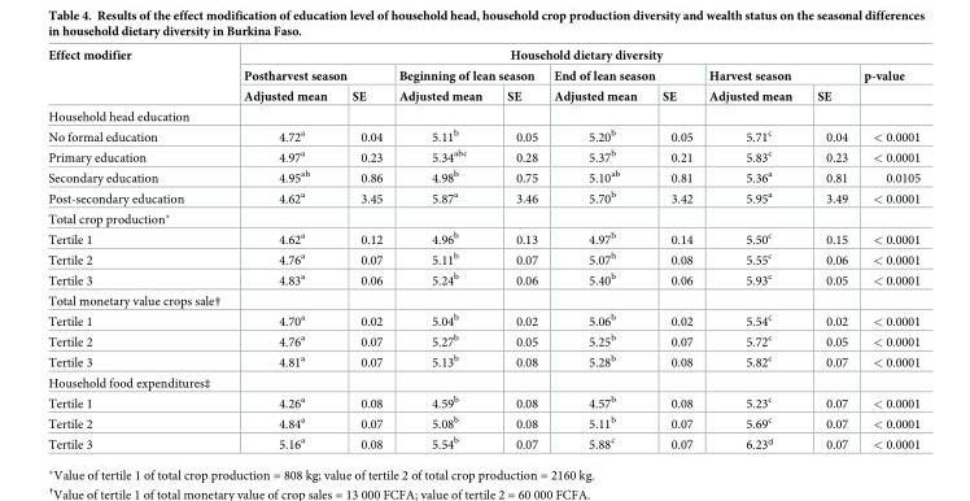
<table><thead><tr><td rowspan="3">Effect modifier</td><td colspan="9">Household dietary diversity</td></tr><tr><td colspan="2">Postharvest season</td><td colspan="2">Beginning of lean season</td><td colspan="2">End of lean season</td><td colspan="2">Harvest season</td><td rowspan="2">p-value</td></tr><tr><td>Adjusted mean</td><td>SE</td><td>Adjusted mean</td><td>SE</td><td>Adjusted mean</td><td>SE</td><td>Adjusted mean</td><td>SE</td></tr></thead><tbody><tr><td colspan="10">Household head education</td></tr><tr><td>No formal education</td><td>4.72<sup>a</sup></td><td>0.04</td><td>5.11<sup>b</sup></td><td>0.05</td><td>5.20<sup>b</sup></td><td>0.05</td><td>5.71<sup>c</sup></td><td>0.04</td><td>&lt; 0.0001</td></tr><tr><td>Primary education</td><td>4.97<sup>a</sup></td><td>0.23</td><td>5.34<sup>abc</sup></td><td>0.28</td><td>5.37<sup>b</sup></td><td>0.21</td><td>5.83<sup>c</sup></td><td>0.23</td><td>&lt; 0.0001</td></tr><tr><td>Secondary education</td><td>4.95<sup>ab</sup></td><td>0.86</td><td>4.98<sup>b</sup></td><td>0.75</td><td>5.10<sup>ab</sup></td><td>0.81</td><td>5.36<sup>a</sup></td><td>0.81</td><td>0.0105</td></tr><tr><td>Post-secondary education</td><td>4.62<sup>a</sup></td><td>3.45</td><td>5.87<sup>a</sup></td><td>3.46</td><td>5.70<sup>b</sup></td><td>3.42</td><td>5.95<sup>a</sup></td><td>3.49</td><td>&lt; 0.0001</td></tr><tr><td colspan="10">Total crop production*</td></tr><tr><td>Tertile 1</td><td>4.62<sup>a</sup></td><td>0.12</td><td>4.96<sup>b</sup></td><td>0.13</td><td>4.97<sup>b</sup></td><td>0.14</td><td>5.50<sup>c</sup></td><td>0.15</td><td>&lt; 0.0001</td></tr><tr><td>Tertile 2</td><td>4.76<sup>a</sup></td><td>0.07</td><td>5.11<sup>b</sup></td><td>0.07</td><td>5.07<sup>b</sup></td><td>0.08</td><td>5.55<sup>c</sup></td><td>0.06</td><td>&lt; 0.0001</td></tr><tr><td>Tertile 3</td><td>4.83<sup>a</sup></td><td>0.06</td><td>5.24<sup>b</sup></td><td>0.06</td><td>5.40<sup>b</sup></td><td>0.06</td><td>5.93<sup>c</sup></td><td>0.05</td><td>&lt; 0.0001</td></tr><tr><td colspan="10">Total monetary value crops sale†</td></tr><tr><td>Tertile 1</td><td>4.70<sup>a</sup></td><td>0.02</td><td>5.04<sup>b</sup></td><td>0.02</td><td>5.06<sup>b</sup></td><td>0.02</td><td>5.54<sup>c</sup></td><td>0.02</td><td>&lt; 0.0001</td></tr><tr><td>Tertile 2</td><td>4.76<sup>a</sup></td><td>0.07</td><td>5.27<sup>b</sup></td><td>0.05</td><td>5.25<sup>b</sup></td><td>0.07</td><td>5.72<sup>c</sup></td><td>0.05</td><td>&lt; 0.0001</td></tr><tr><td>Tertile 3</td><td>4.81<sup>a</sup></td><td>0.07</td><td>5.13<sup>b</sup></td><td>0.08</td><td>5.28<sup>b</sup></td><td>0.08</td><td>5.82<sup>c</sup></td><td>0.07</td><td>&lt; 0.0001</td></tr><tr><td colspan="10">Household food expenditures‡</td></tr><tr><td>Tertile 1</td><td>4.26<sup>a</sup></td><td>0.08</td><td>4.59<sup>b</sup></td><td>0.08</td><td>4.57<sup>b</sup></td><td>0.08</td><td>5.23<sup>c</sup></td><td>0.07</td><td>&lt; 0.0001</td></tr><tr><td>Tertile 2</td><td>4.84<sup>a</sup></td><td>0.07</td><td>5.08<sup>b</sup></td><td>0.08</td><td>5.11<sup>b</sup></td><td>0.07</td><td>5.69<sup>c</sup></td><td>0.07</td><td>&lt; 0.0001</td></tr><tr><td>Tertile 3</td><td>5.16<sup>a</sup></td><td>0.08</td><td>5.54<sup>b</sup></td><td>0.07</td><td>5.88<sup>c</sup></td><td>0.07</td><td>6.23ᵈ</td><td>0.07</td><td>&lt; 0.0001</td></tr></tbody></table>